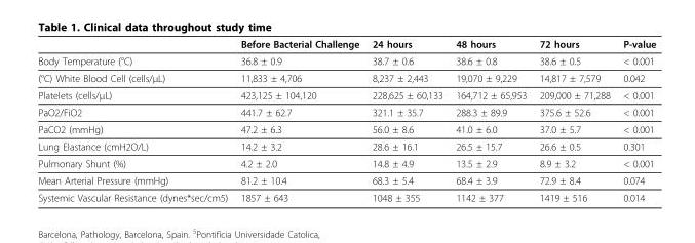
<table><thead><tr><td></td><td>Before Bacterial Challenge</td><td>24 hours</td><td>48 hours</td><td>72 hours</td><td>P-value</td></tr></thead><tbody><tr><td>Body Temperature (°C)</td><td>36.8 ± 0.9</td><td>38.7 ± 0.6</td><td>38.6 ± 0.8</td><td>38.6 ± 0.5</td><td>&lt; 0.001</td></tr><tr><td>(°C) White Blood Cell (cells/µL)</td><td>11,833 ± 4,706</td><td>8,237 ± 2,443</td><td>19,070 ± 9,229</td><td>14,817 ± 7,579</td><td>0.042</td></tr><tr><td>Platelets (cells/µL)</td><td>423,125 ± 104,120</td><td>228,625 ± 60,133</td><td>164,712 ± 65,953</td><td>209,000 ± 71,288</td><td>&lt; 0.001</td></tr><tr><td>PaO2/FiO2</td><td>441.7 ± 62.7</td><td>321.1 ± 35.7</td><td>288.3 ± 89.9</td><td>375.6 ± 52.6</td><td>&lt; 0.001</td></tr><tr><td>PaCO2 (mmHg)</td><td>47.2 ± 6.3</td><td>56.0 ± 8.6</td><td>41.0 ± 6.0</td><td>37.0 ± 5.7</td><td>&lt; 0.001</td></tr><tr><td>Lung Elastance (cmH2O/L)</td><td>14.2 ± 3.2</td><td>28.6 ± 16.1</td><td>26.5 ± 15.7</td><td>26.6 ± 0.5</td><td>0.301</td></tr><tr><td>Pulmonary Shunt (%)</td><td>4.2 ± 2.0</td><td>14.8 ± 4.9</td><td>13.5 ± 2.9</td><td>8.9 ± 3.2</td><td>&lt; 0.001</td></tr><tr><td>Mean Arterial Pressure (mmHg)</td><td>81.2 ± 10.4</td><td>68.3 ± 5.4</td><td>68.4 ± 3.9</td><td>72.9 ± 8.4</td><td>0.074</td></tr><tr><td>Systemic Vascular Resistance (dynes*sec/cm5)</td><td>1857 ± 643</td><td>1048 ± 355</td><td>1142 ± 377</td><td>1419 ± 516</td><td>0.014</td></tr></tbody></table>